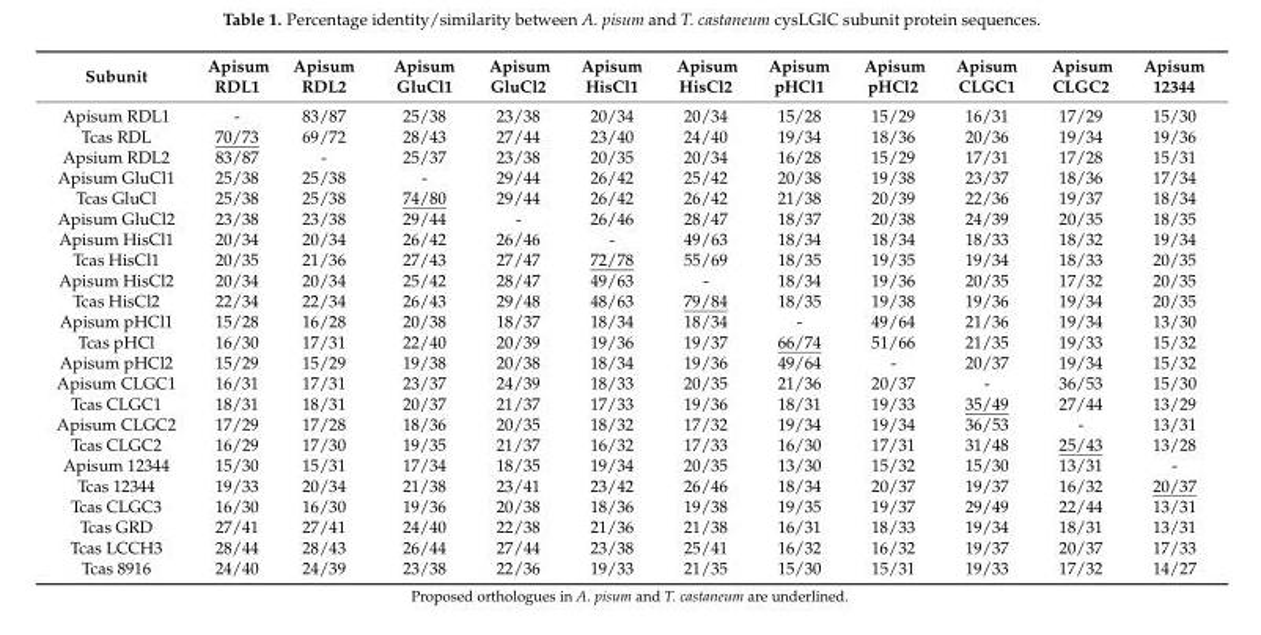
<table><thead><tr><td>Subunit</td><td>Apisum RDL1</td><td>Apisum RDL2</td><td>Apisum GluCl1</td><td>Apisum GluCl2</td><td>Apisum HisCl1</td><td>Apisum HisCl2</td><td>Apisum pHCl1</td><td>Apisum pHCl2</td><td>Apisum CLGC1</td><td>Apisum CLGC2</td><td>Apisum 12344</td></tr></thead><tbody><tr><td>Apisum RDL1</td><td>-</td><td>83/87</td><td>25/38</td><td>23/38</td><td>20/34</td><td>20/34</td><td>15/28</td><td>15/29</td><td>16/31</td><td>17/29</td><td>15/30</td></tr><tr><td>Tcas RDL</td><td>70/73</td><td>69/72</td><td>28/43</td><td>27/44</td><td>23/40</td><td>24/40</td><td>19/34</td><td>18/36</td><td>20/36</td><td>19/34</td><td>19/36</td></tr><tr><td>Apsium RDL2</td><td>83/87</td><td>-</td><td>25/37</td><td>23/38</td><td>20/35</td><td>20/34</td><td>16/28</td><td>15/29</td><td>17/31</td><td>17/28</td><td>15/31</td></tr><tr><td>Apisum GluCl1</td><td>25/38</td><td>25/38</td><td>-</td><td>29/44</td><td>26/42</td><td>25/42</td><td>20/38</td><td>19/38</td><td>23/37</td><td>18/36</td><td>17/34</td></tr><tr><td>Tcas GluCl</td><td>25/38</td><td>25/38</td><td>74/80</td><td>29/44</td><td>26/42</td><td>26/42</td><td>21/38</td><td>20/39</td><td>22/36</td><td>19/37</td><td>18/34</td></tr><tr><td>Apisum GluCl2</td><td>23/38</td><td>23/38</td><td>29/44</td><td>-</td><td>26/46</td><td>28/47</td><td>18/37</td><td>20/38</td><td>24/39</td><td>20/35</td><td>18/35</td></tr><tr><td>Apisum HisCl1</td><td>20/34</td><td>20/34</td><td>26/42</td><td>26/46</td><td>-</td><td>49/63</td><td>18/34</td><td>18/34</td><td>18/33</td><td>18/32</td><td>19/34</td></tr><tr><td>Tcas HisCl1</td><td>20/35</td><td>21/36</td><td>27/43</td><td>27/47</td><td>72/78</td><td>55/69</td><td>18/35</td><td>19/35</td><td>19/34</td><td>18/33</td><td>20/35</td></tr><tr><td>Apisum HisCl2</td><td>20/34</td><td>20/34</td><td>25/42</td><td>28/47</td><td>49/63</td><td>-</td><td>18/34</td><td>19/36</td><td>20/35</td><td>17/32</td><td>20/35</td></tr><tr><td>Tcas HisCl2</td><td>22/34</td><td>22/34</td><td>26/43</td><td>29/48</td><td>48/63</td><td>79/84</td><td>18/35</td><td>19/38</td><td>19/36</td><td>19/34</td><td>20/35</td></tr><tr><td>Apisum pHCl1</td><td>15/28</td><td>16/28</td><td>20/38</td><td>18/37</td><td>18/34</td><td>18/34</td><td>-</td><td>49/64</td><td>21/36</td><td>19/34</td><td>13/30</td></tr><tr><td>Tcas pHCl</td><td>16/30</td><td>17/31</td><td>22/40</td><td>20/39</td><td>19/36</td><td>19/37</td><td>66/74</td><td>51/66</td><td>21/35</td><td>19/33</td><td>15/32</td></tr><tr><td>Apisum pHCl2</td><td>15/29</td><td>15/29</td><td>19/38</td><td>20/38</td><td>18/34</td><td>19/36</td><td>49/64</td><td>-</td><td>20/37</td><td>19/34</td><td>15/32</td></tr><tr><td>Apisum CLGC1</td><td>16/31</td><td>17/31</td><td>23/37</td><td>24/39</td><td>18/33</td><td>20/35</td><td>21/36</td><td>20/37</td><td>-</td><td>36/53</td><td>15/30</td></tr><tr><td>Tcas CLGC1</td><td>18/31</td><td>18/31</td><td>20/37</td><td>21/37</td><td>17/33</td><td>19/36</td><td>18/31</td><td>19/33</td><td>35/49</td><td>27/44</td><td>13/29</td></tr><tr><td>Apisum CLGC2</td><td>17/29</td><td>17/28</td><td>18/36</td><td>20/35</td><td>18/32</td><td>17/32</td><td>19/34</td><td>19/34</td><td>36/53</td><td>-</td><td>13/31</td></tr><tr><td>Tcas CLGC2</td><td>16/29</td><td>17/30</td><td>19/35</td><td>21/37</td><td>16/32</td><td>17/33</td><td>16/30</td><td>17/31</td><td>31/48</td><td>25/43</td><td>13/28</td></tr><tr><td>Apisum 12344</td><td>15/30</td><td>15/31</td><td>17/34</td><td>18/35</td><td>19/34</td><td>20/35</td><td>13/30</td><td>15/32</td><td>15/30</td><td>13/31</td><td>-</td></tr><tr><td>Tcas 12344</td><td>19/33</td><td>20/34</td><td>21/38</td><td>23/41</td><td>23/42</td><td>26/46</td><td>18/34</td><td>20/37</td><td>19/37</td><td>16/32</td><td>20/37</td></tr><tr><td>Tcas CLGC3</td><td>16/30</td><td>16/30</td><td>19/36</td><td>20/38</td><td>18/36</td><td>19/38</td><td>19/35</td><td>19/37</td><td>29/49</td><td>22/44</td><td>13/31</td></tr><tr><td>Tcas GRD</td><td>27/41</td><td>27/41</td><td>24/40</td><td>22/38</td><td>21/36</td><td>21/38</td><td>16/31</td><td>18/33</td><td>19/34</td><td>18/31</td><td>13/31</td></tr><tr><td>Tcas LCCH3</td><td>28/44</td><td>28/43</td><td>26/44</td><td>27/44</td><td>23/38</td><td>25/41</td><td>16/32</td><td>16/32</td><td>19/37</td><td>20/37</td><td>17/33</td></tr><tr><td>Tcas 8916</td><td>24/40</td><td>24/39</td><td>23/38</td><td>22/36</td><td>19/33</td><td>21/35</td><td>15/30</td><td>15/31</td><td>19/33</td><td>17/32</td><td>14/27</td></tr></tbody></table>